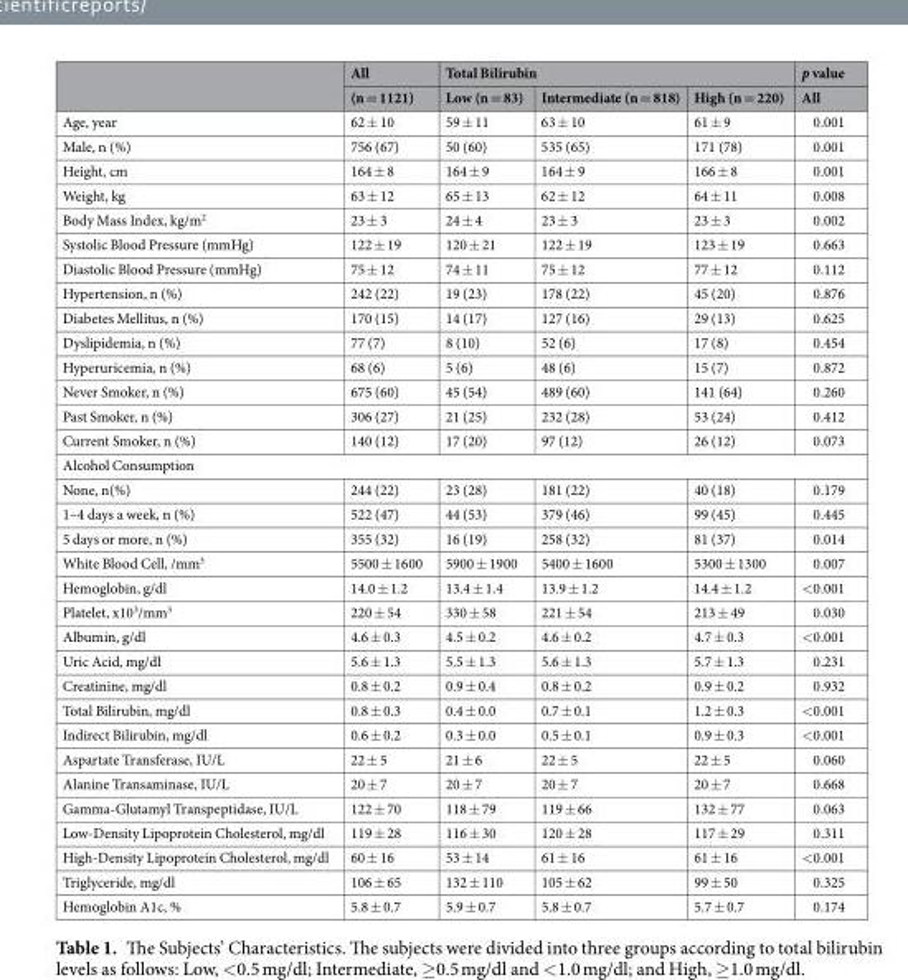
<table><thead><tr><td rowspan="2"></td><td rowspan="2">All (n = 1121)</td><td colspan="3">Total Bilirubin</td><td rowspan="2">p value All</td></tr><tr><td>Low (n = 83)</td><td>Intermediate (n = 818)</td><td>High (n = 220)</td></tr></thead><tbody><tr><td>Age, year</td><td>62 ± 10</td><td>59 ± 11</td><td>63 ± 10</td><td>61 ± 9</td><td>0.001</td></tr><tr><td>Male, n (%)</td><td>756 (67)</td><td>50 (60)</td><td>535 (65)</td><td>171 (78)</td><td>0.001</td></tr><tr><td>Height, cm</td><td>164 ± 8</td><td>164 ± 9</td><td>164 ± 9</td><td>166 ± 8</td><td>0.001</td></tr><tr><td>Weight, kg</td><td>63 ± 12</td><td>65 ± 13</td><td>62 ± 12</td><td>64 ± 11</td><td>0.008</td></tr><tr><td>Body Mass Index, kg/m<sup>2</sup></td><td>23 ± 3</td><td>24 ± 4</td><td>23 ± 3</td><td>23 ± 3</td><td>0.002</td></tr><tr><td>Systolic Blood Pressure (mmHg)</td><td>122 ± 19</td><td>120 ± 21</td><td>122 ± 19</td><td>123 ± 19</td><td>0.663</td></tr><tr><td>Diastolic Blood Pressure (mmHg)</td><td>75 ± 12</td><td>74 ± 11</td><td>75 ± 12</td><td>77 ± 12</td><td>0.112</td></tr><tr><td>Hypertension, n (%)</td><td>242 (22)</td><td>19 (23)</td><td>178 (22)</td><td>45 (20)</td><td>0.876</td></tr><tr><td>Diabetes Mellitus, n (%)</td><td>170 (15)</td><td>14 (17)</td><td>127 (16)</td><td>29 (13)</td><td>0.625</td></tr><tr><td>Dyslipidemia, n (%)</td><td>77 (7)</td><td>8 (10)</td><td>52 (6)</td><td>17 (8)</td><td>0.454</td></tr><tr><td>Hyperuricemia, n (%)</td><td>68 (6)</td><td>5 (6)</td><td>48 (6)</td><td>15 (7)</td><td>0.872</td></tr><tr><td>Never Smoker, n (%)</td><td>675 (60)</td><td>45 (54)</td><td>489 (60)</td><td>141 (64)</td><td>0.260</td></tr><tr><td>Past Smoker, n (%)</td><td>306 (27)</td><td>21 (25)</td><td>232 (28)</td><td>53 (24)</td><td>0.412</td></tr><tr><td>Current Smoker, n (%)</td><td>140 (12)</td><td>17 (20)</td><td>97 (12)</td><td>26 (12)</td><td>0.073</td></tr><tr><td colspan="6">Alcohol Consumption</td></tr><tr><td>None, n(%)</td><td>244 (22)</td><td>23 (28)</td><td>181 (22)</td><td>40 (18)</td><td>0.179</td></tr><tr><td>1–4 days a week, n (%)</td><td>522 (47)</td><td>44 (53)</td><td>379 (46)</td><td>99 (45)</td><td>0.445</td></tr><tr><td>5 days or more, n (%)</td><td>355 (32)</td><td>16 (19)</td><td>258 (32)</td><td>81 (37)</td><td>0.014</td></tr><tr><td>White Blood Cell, /mm<sup>3</sup></td><td>5500 ± 1600</td><td>5900 ± 1900</td><td>5400 ± 1600</td><td>5300 ± 1300</td><td>0.007</td></tr><tr><td>Hemoglobin, g/dl</td><td>14.0 ± 1.2</td><td>13.4 ± 1.4</td><td>13.9 ± 1.2</td><td>14.4 ± 1.2</td><td>&lt;0.001</td></tr><tr><td>Platelet, x10<sup>3</sup>/mm<sup>3</sup></td><td>220 ± 54</td><td>330 ± 58</td><td>221 ± 54</td><td>213 ± 49</td><td>0.030</td></tr><tr><td>Albumin, g/dl</td><td>4.6 ± 0.3</td><td>4.5 ± 0.2</td><td>4.6 ± 0.2</td><td>4.7 ± 0.3</td><td>&lt;0.001</td></tr><tr><td>Uric Acid, mg/dl</td><td>5.6 ± 1.3</td><td>5.5 ± 1.3</td><td>5.6 ± 1.3</td><td>5.7 ± 1.3</td><td>0.231</td></tr><tr><td>Creatinine, mg/dl</td><td>0.8 ± 0.2</td><td>0.9 ± 0.4</td><td>0.8 ± 0.2</td><td>0.9 ± 0.2</td><td>0.932</td></tr><tr><td>Total Bilirubin, mg/dl</td><td>0.8 ± 0.3</td><td>0.4 ± 0.0</td><td>0.7 ± 0.1</td><td>1.2 ± 0.3</td><td>&lt;0.001</td></tr><tr><td>Indirect Bilirubin, mg/dl</td><td>0.6 ± 0.2</td><td>0.3 ± 0.0</td><td>0.5 ± 0.1</td><td>0.9 ± 0.3</td><td>&lt;0.001</td></tr><tr><td>Aspartate Transferase, IU/L</td><td>22 ± 5</td><td>21 ± 6</td><td>22 ± 5</td><td>22 ± 5</td><td>0.060</td></tr><tr><td>Alanine Transaminase, IU/L</td><td>20 ± 7</td><td>20 ± 7</td><td>20 ± 7</td><td>20 ± 7</td><td>0.668</td></tr><tr><td>Gamma-Glutamyl Transpeptidase, IU/L</td><td>122 ± 70</td><td>118 ± 79</td><td>119 ± 66</td><td>132 ± 77</td><td>0.063</td></tr><tr><td>Low-Density Lipoprotein Cholesterol, mg/dl</td><td>119 ± 28</td><td>116 ± 30</td><td>120 ± 28</td><td>117 ± 29</td><td>0.311</td></tr><tr><td>High-Density Lipoprotein Cholesterol, mg/dl</td><td>60 ± 16</td><td>53 ± 14</td><td>61 ± 16</td><td>61 ± 16</td><td>&lt;0.001</td></tr><tr><td>Triglyceride, mg/dl</td><td>106 ± 65</td><td>132 ± 110</td><td>105 ± 62</td><td>99 ± 50</td><td>0.325</td></tr><tr><td>Hemoglobin A1c, %</td><td>5.8 ± 0.7</td><td>5.9 ± 0.7</td><td>5.8 ± 0.7</td><td>5.7 ± 0.7</td><td>0.174</td></tr></tbody></table>